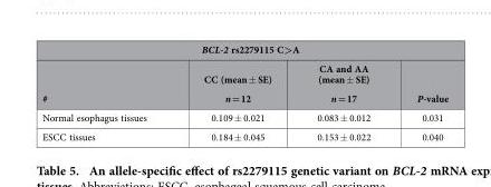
<table><thead><tr><td colspan="4">BCL-2 rs2279115 C&gt;A</td></tr><tr><td rowspan="2">#</td><td rowspan="2">CC (mean ± SE) n = 12</td><td rowspan="2">CA and AA (mean ± SE) n = 17</td><td rowspan="2">P-value</td></tr><tr></tr></thead><tbody><tr><td>Normal esophagus tissues</td><td>0.109 ± 0.021</td><td>0.083 ± 0.012</td><td>0.031</td></tr><tr><td>ESCC tissues</td><td>0.184 ± 0.045</td><td>0.153 ± 0.022</td><td>0.040</td></tr></tbody></table>